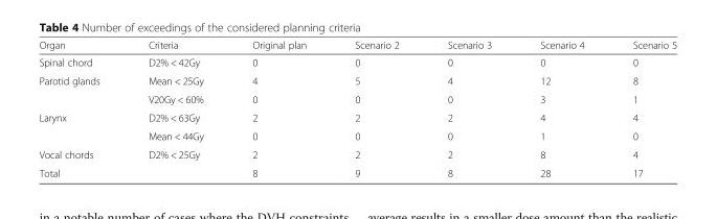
<table><thead><tr><td>Organ</td><td>Criteria</td><td>Original plan</td><td>Scenario 2</td><td>Scenario 3</td><td>Scenario 4</td><td>Scenario 5</td></tr></thead><tbody><tr><td>Spinal chord</td><td>D2% &lt; 42Gy</td><td>0</td><td>0</td><td>0</td><td>0</td><td>0</td></tr><tr><td rowspan="2">Parotid glands</td><td>Mean &lt; 25Gy</td><td>4</td><td>5</td><td>4</td><td>12</td><td>8</td></tr><tr><td>V20Gy &lt; 60%</td><td>0</td><td>0</td><td>0</td><td>3</td><td>1</td></tr><tr><td rowspan="2">Larynx</td><td>D2% &lt; 63Gy</td><td>2</td><td>2</td><td>2</td><td>4</td><td>4</td></tr><tr><td>Mean &lt; 44Gy</td><td>0</td><td>0</td><td>0</td><td>1</td><td>0</td></tr><tr><td>Vocal chords</td><td>D2% &lt; 25Gy</td><td>2</td><td>2</td><td>2</td><td>8</td><td>4</td></tr><tr><td>Total</td><td></td><td>8</td><td>9</td><td>8</td><td>28</td><td>17</td></tr></tbody></table>